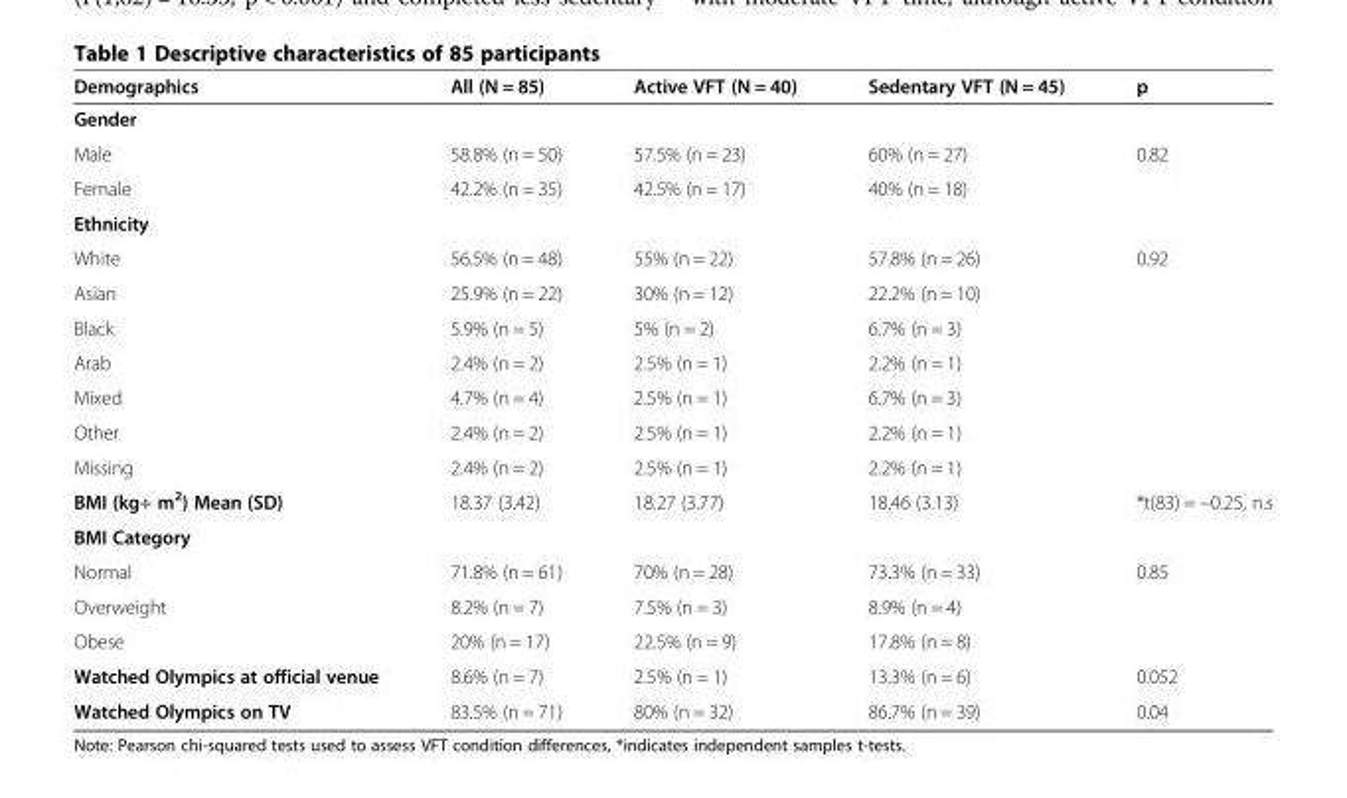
<table><thead><tr><td>Demographics</td><td>All (N = 85)</td><td>Active VFT (N = 40)</td><td>Sedentary VFT (N = 45)</td><td>p</td></tr></thead><tbody><tr><td colspan="5">Gender</td></tr><tr><td>Male</td><td>58.8% (n = 50)</td><td>57.5% (n = 23)</td><td>60% (n = 27)</td><td>0.82</td></tr><tr><td>Female</td><td>42.2% (n = 35)</td><td>42.5% (n = 17)</td><td>40% (n = 18)</td><td></td></tr><tr><td colspan="5">Ethnicity</td></tr><tr><td>White</td><td>56.5% (n = 48)</td><td>55% (n = 22)</td><td>57.8% (n = 26)</td><td>0.92</td></tr><tr><td>Asian</td><td>25.9% (n = 22)</td><td>30% (n = 12)</td><td>22.2% (n = 10)</td><td></td></tr><tr><td>Black</td><td>5.9% (n = 5)</td><td>5% (n = 2)</td><td>6.7% (n = 3)</td><td></td></tr><tr><td>Arab</td><td>2.4% (n = 2)</td><td>2.5% (n = 1)</td><td>2.2% (n = 1)</td><td></td></tr><tr><td>Mixed</td><td>4.7% (n = 4)</td><td>2.5% (n = 1)</td><td>6.7% (n = 3)</td><td></td></tr><tr><td>Other</td><td>2.4% (n = 2)</td><td>2.5% (n = 1)</td><td>2.2% (n = 1)</td><td></td></tr><tr><td>Missing</td><td>2.4% (n = 2)</td><td>2.5% (n = 1)</td><td>2.2% (n = 1)</td><td></td></tr><tr><td>BMI (kg÷ m<sup>2</sup>) Mean (SD)</td><td>18.37 (3.42)</td><td>18.27 (3.77)</td><td>18.46 (3.13)</td><td>*t(83) = −0.25, n.s</td></tr><tr><td colspan="5">BMI Category</td></tr><tr><td>Normal</td><td>71.8% (n = 61)</td><td>70% (n = 28)</td><td>73.3% (n = 33)</td><td>0.85</td></tr><tr><td>Overweight</td><td>8.2% (n = 7)</td><td>7.5% (n = 3)</td><td>8.9% (n = 4)</td><td></td></tr><tr><td>Obese</td><td>20% (n = 17)</td><td>22.5% (n = 9)</td><td>17.8% (n = 8)</td><td></td></tr><tr><td>Watched Olympics at official venue</td><td>8.6% (n = 7)</td><td>2.5% (n = 1)</td><td>13.3% (n = 6)</td><td>0.052</td></tr><tr><td>Watched Olympics on TV</td><td>83.5% (n = 71)</td><td>80% (n = 32)</td><td>86.7% (n = 39)</td><td>0.04</td></tr></tbody></table>